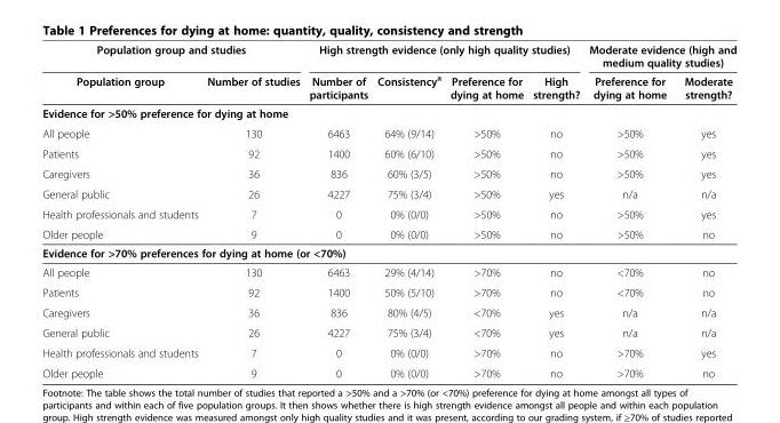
<table><thead><tr><td colspan="2">Population group and studies</td><td colspan="4">High strength evidence (only high quality studies)</td><td colspan="2">Moderate evidence (high and medium quality studies)</td></tr><tr><td>Population group</td><td>Number of studies</td><td>Number of participants</td><td>Consistency<sup>a</sup></td><td>Preference for dying at home</td><td>High strength?</td><td>Preference for dying at home</td><td>Moderate strength?</td></tr></thead><tbody><tr><td colspan="8">Evidence for &gt;50% preference for dying at home</td></tr><tr><td>All people</td><td>130</td><td>6463</td><td>64% (9/14)</td><td>&gt;50%</td><td>no</td><td>&gt;50%</td><td>yes</td></tr><tr><td>Patients</td><td>92</td><td>1400</td><td>60% (6/10)</td><td>&gt;50%</td><td>no</td><td>&gt;50%</td><td>yes</td></tr><tr><td>Caregivers</td><td>36</td><td>836</td><td>60% (3/5)</td><td>&gt;50%</td><td>no</td><td>&gt;50%</td><td>yes</td></tr><tr><td>General public</td><td>26</td><td>4227</td><td>75% (3/4)</td><td>&gt;50%</td><td>yes</td><td>n/a</td><td>n/a</td></tr><tr><td>Health professionals and students</td><td>7</td><td>0</td><td>0% (0/0)</td><td>&gt;50%</td><td>no</td><td>&gt;50%</td><td>yes</td></tr><tr><td>Older people</td><td>9</td><td>0</td><td>0% (0/0)</td><td>&gt;50%</td><td>no</td><td>&gt;50%</td><td>no</td></tr><tr><td colspan="8">Evidence for &gt;70% preferences for dying at home (or &lt;70%)</td></tr><tr><td>All people</td><td>130</td><td>6463</td><td>29% (4/14)</td><td>&gt;70%</td><td>no</td><td>&lt;70%</td><td>no</td></tr><tr><td>Patients</td><td>92</td><td>1400</td><td>50% (5/10)</td><td>&gt;70%</td><td>no</td><td>&lt;70%</td><td>no</td></tr><tr><td>Caregivers</td><td>36</td><td>836</td><td>80% (4/5)</td><td>&lt;70%</td><td>yes</td><td>n/a</td><td>n/a</td></tr><tr><td>General public</td><td>26</td><td>4227</td><td>75% (3/4)</td><td>&lt;70%</td><td>yes</td><td>n/a</td><td>n/a</td></tr><tr><td>Health professionals and students</td><td>7</td><td>0</td><td>0% (0/0)</td><td>&gt;70%</td><td>no</td><td>&gt;70%</td><td>yes</td></tr><tr><td>Older people</td><td>9</td><td>0</td><td>0% (0/0)</td><td>&gt;70%</td><td>no</td><td>&gt;70%</td><td>no</td></tr></tbody></table>